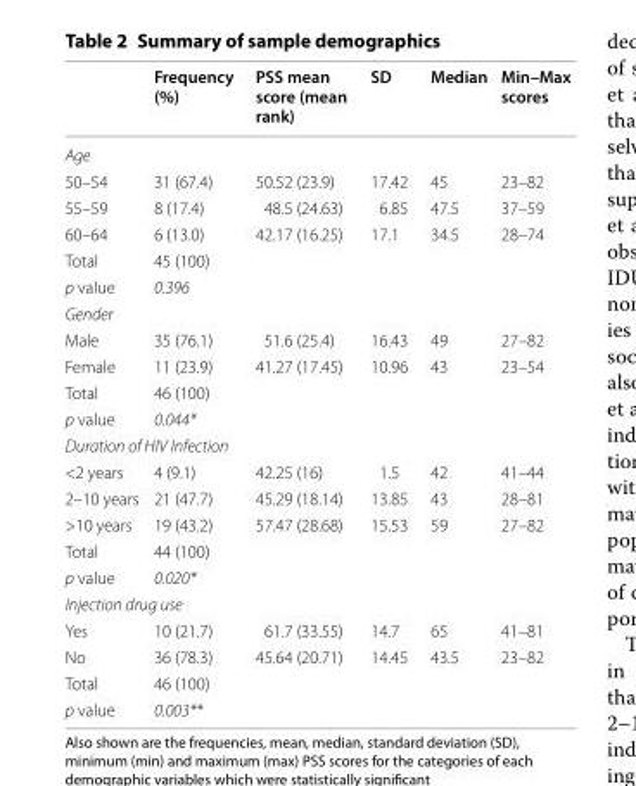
<table><thead><tr><td></td><td>Frequency (%)</td><td>PSS mean score (mean rank)</td><td>SD</td><td>Median</td><td>Min–Max scores</td></tr></thead><tbody><tr><td colspan="6">Age</td></tr><tr><td>50–54</td><td>31 (67.4)</td><td>50.52 (23.9)</td><td>17.42</td><td>45</td><td>23–82</td></tr><tr><td>55–59</td><td>8 (17.4)</td><td>48.5 (24.63)</td><td>6.85</td><td>47.5</td><td>37–59</td></tr><tr><td>60–64</td><td>6 (13.0)</td><td>42.17 (16.25)</td><td>17.1</td><td>34.5</td><td>28–74</td></tr><tr><td>Total</td><td>45 (100)</td><td></td><td></td><td></td><td></td></tr><tr><td>p value</td><td>0.396</td><td></td><td></td><td></td><td></td></tr><tr><td colspan="6">Gender</td></tr><tr><td>Male</td><td>35 (76.1)</td><td>51.6 (25.4)</td><td>16.43</td><td>49</td><td>27–82</td></tr><tr><td>Female</td><td>11 (23.9)</td><td>41.27 (17.45)</td><td>10.96</td><td>43</td><td>23–54</td></tr><tr><td>Total</td><td>46 (100)</td><td></td><td></td><td></td><td></td></tr><tr><td>p value</td><td>0.044*</td><td></td><td></td><td></td><td></td></tr><tr><td colspan="6">Duration of HIV Infection</td></tr><tr><td>&lt;2 years</td><td>4 (9.1)</td><td>42.25 (16)</td><td>1.5</td><td>42</td><td>41–44</td></tr><tr><td>2–10 years</td><td>21 (47.7)</td><td>45.29 (18.14)</td><td>13.85</td><td>43</td><td>28–81</td></tr><tr><td>&gt;10 years</td><td>19 (43.2)</td><td>57.47 (28.68)</td><td>15.53</td><td>59</td><td>27–82</td></tr><tr><td>Total</td><td>44 (100)</td><td></td><td></td><td></td><td></td></tr><tr><td>p value</td><td>0.020*</td><td></td><td></td><td></td><td></td></tr><tr><td colspan="6">Injection drug use</td></tr><tr><td>Yes</td><td>10 (21.7)</td><td>61.7 (33.55)</td><td>14.7</td><td>65</td><td>41–81</td></tr><tr><td>No</td><td>36 (78.3)</td><td>45.64 (20.71)</td><td>14.45</td><td>43.5</td><td>23–82</td></tr><tr><td>Total</td><td>46 (100)</td><td></td><td></td><td></td><td></td></tr><tr><td>p value</td><td>0.003**</td><td></td><td></td><td></td><td></td></tr></tbody></table>